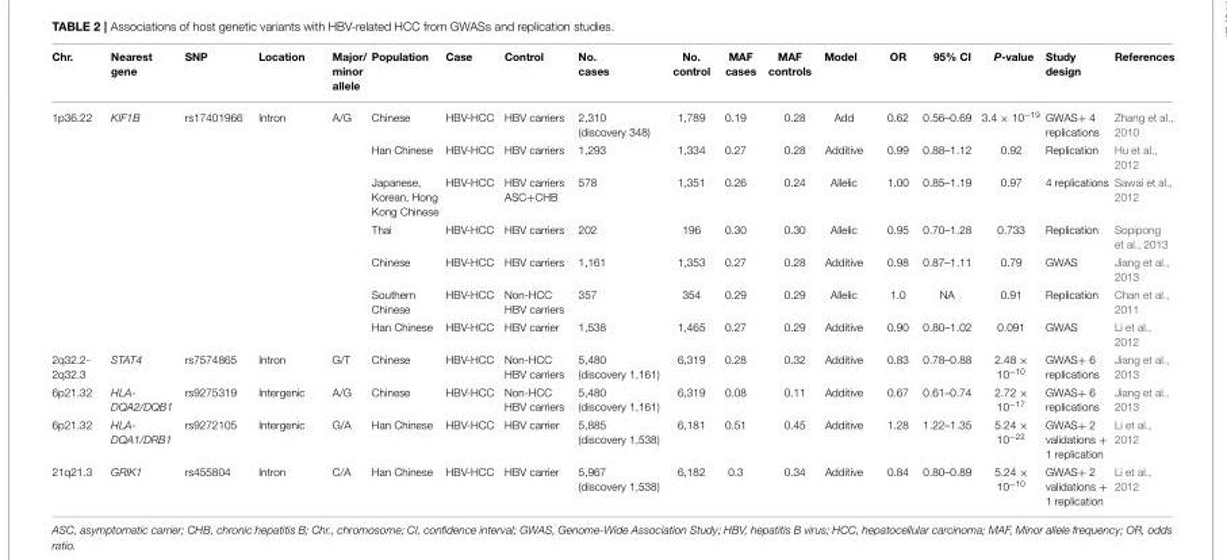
<table><thead><tr><td>Chr.</td><td>Nearest gene</td><td>SNP</td><td>Location</td><td>Major/ minor allele</td><td>Population</td><td>Case</td><td>Control</td><td>No. cases</td><td>No. control</td><td>MAF cases</td><td>MAF controls</td><td>Model</td><td>OR</td><td>95% CI</td><td>P-value</td><td>Study design</td><td>References</td></tr></thead><tbody><tr><td rowspan="7">1p36.22</td><td>KIF1B</td><td>rs17401966</td><td>Intron</td><td>A/G</td><td>Chinese</td><td>HBV-HCC</td><td>HBV carriers</td><td>2,310 (discovery 348)</td><td>1,789</td><td>0.19</td><td>0.28</td><td>Add</td><td>0.62</td><td>0.56–0.69</td><td>3.4 × 10<sup>−19</sup></td><td>GWAS+ 4 replications</td><td>Zhang et al., 2010</td></tr><tr><td></td><td></td><td></td><td></td><td>Han Chinese</td><td>HBV-HCC</td><td>HBV carriers</td><td>1,293</td><td>1,334</td><td>0.27</td><td>0.28</td><td>Additive</td><td>0.99</td><td>0.88–1.12</td><td>0.92</td><td>Replication</td><td>Hu et al., 2012</td></tr><tr><td></td><td></td><td></td><td></td><td>Japanese, Korean, Hong Kong Chinese</td><td>HBV-HCC</td><td>HBV carriers ASC+CHB</td><td>578</td><td>1,351</td><td>0.26</td><td>0.24</td><td>Allelic</td><td>1.00</td><td>0.85–1.19</td><td>0.97</td><td>4 replications</td><td>Sawai et al., 2012</td></tr><tr><td></td><td></td><td></td><td></td><td>Thai</td><td>HBV-HCC</td><td>HBV carriers</td><td>202</td><td>196</td><td>0.30</td><td>0.30</td><td>Allelic</td><td>0.95</td><td>0.70–1.28</td><td>0.733</td><td>Replication</td><td>Sopipong et al., 2013</td></tr><tr><td></td><td></td><td></td><td></td><td>Chinese</td><td>HBV-HCC</td><td>HBV carriers</td><td>1,161</td><td>1,353</td><td>0.27</td><td>0.28</td><td>Additive</td><td>0.98</td><td>0.87–1.11</td><td>0.79</td><td>GWAS</td><td>Jiang et al., 2013</td></tr><tr><td></td><td></td><td></td><td></td><td>Southern Chinese</td><td>HBV-HCC</td><td>Non-HCC HBV carriers</td><td>357</td><td>354</td><td>0.29</td><td>0.29</td><td>Allelic</td><td>1.0</td><td>NA</td><td>0.91</td><td>Replication</td><td>Chan et al., 2011</td></tr><tr><td></td><td></td><td></td><td></td><td>Han Chinese</td><td>HBV-HCC</td><td>HBV carrier</td><td>1,538</td><td>1,465</td><td>0.27</td><td>0.29</td><td>Additive</td><td>0.90</td><td>0.80–1.02</td><td>0.091</td><td>GWAS</td><td>Li et al., 2012</td></tr><tr><td>2q32.2- 2q32.3</td><td>STAT4</td><td>rs7574865</td><td>Intron</td><td>G/T</td><td>Chinese</td><td>HBV-HCC</td><td>Non-HCC HBV carriers</td><td>5,480 (discovery 1,161)</td><td>6,319</td><td>0.28</td><td>0.32</td><td>Additive</td><td>0.83</td><td>0.78–0.88</td><td>2.48 × 10<sup>−10</sup></td><td>GWAS+ 6 replications</td><td>Jiang et al., 2013</td></tr><tr><td>6p21.32</td><td>HLA- DQA2/DQB1</td><td>rs9275319</td><td>Intergenic</td><td>A/G</td><td>Chinese</td><td>HBV-HCC</td><td>Non-HCC HBV carriers</td><td>5,480 (discovery 1,161)</td><td>6,319</td><td>0.08</td><td>0.11</td><td>Additive</td><td>0.67</td><td>0.61–0.74</td><td>2.72 × 10<sup>−17</sup></td><td>GWAS+ 6 replications</td><td>Jiang et al., 2013</td></tr><tr><td>6p21.32</td><td>HLA- DQA1/DRB1</td><td>rs9272105</td><td>Intergenic</td><td>G/A</td><td>Han Chinese</td><td>HBV-HCC</td><td>HBV carrier</td><td>5,885 (discovery 1,538)</td><td>6,181</td><td>0.51</td><td>0.45</td><td>Additive</td><td>1.28</td><td>1.22–1.35</td><td>5.24 × 10<sup>−22</sup></td><td>GWAS+ 2 validations + 1 replication</td><td>Li et al., 2012</td></tr><tr><td>21q21.3</td><td>GRIK1</td><td>rs455804</td><td>Intron</td><td>C/A</td><td>Han Chinese</td><td>HBV-HCC</td><td>HBV carrier</td><td>5,967 (discovery 1,538)</td><td>6,182</td><td>0.3</td><td>0.34</td><td>Additive</td><td>0.84</td><td>0.80–0.89</td><td>5.24 × 10<sup>−10</sup></td><td>GWAS+ 2 validations + 1 replication</td><td>Li et al., 2012</td></tr></tbody></table>